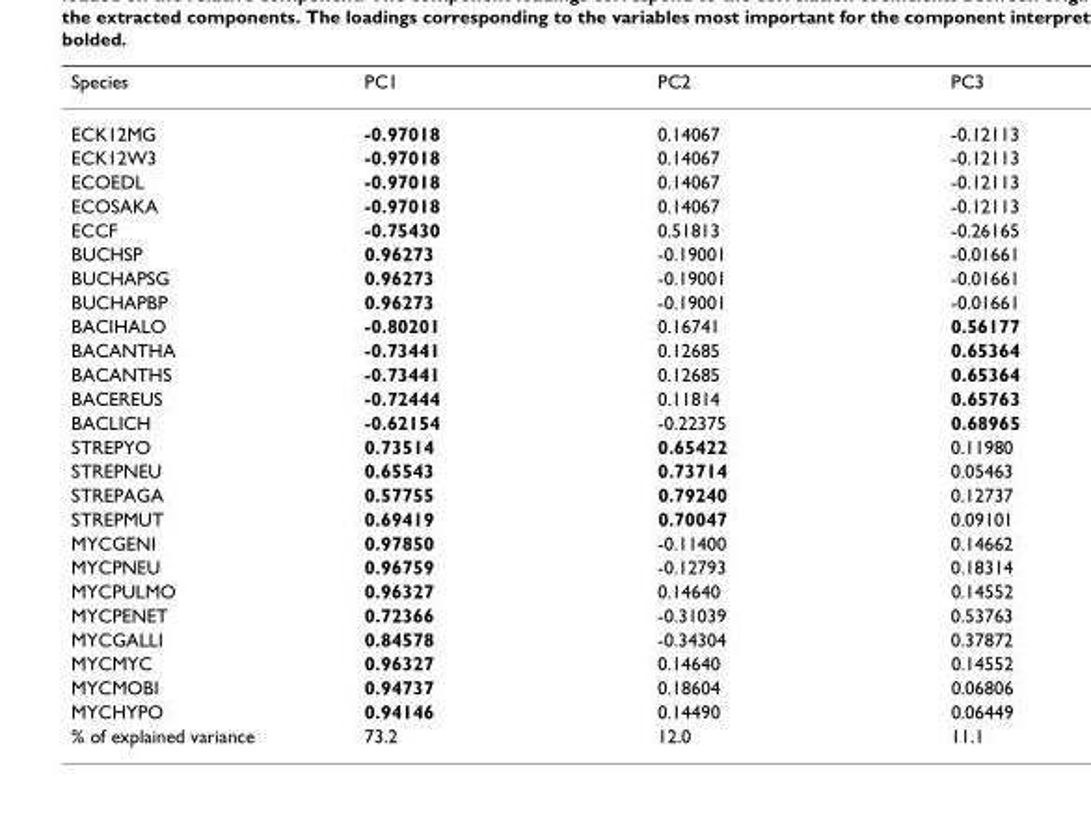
<table><thead><tr><td>Species</td><td>PC1</td><td>PC2</td><td>PC3</td></tr></thead><tbody><tr><td>ECK12MG</td><td>-0.97018</td><td>0.14067</td><td>-0.12113</td></tr><tr><td>ECK12W3</td><td>-0.97018</td><td>0.14067</td><td>-0.12113</td></tr><tr><td>ECOEDL</td><td>-0.97018</td><td>0.14067</td><td>-0.12113</td></tr><tr><td>ECOSAKA</td><td>-0.97018</td><td>0.14067</td><td>-0.12113</td></tr><tr><td>ECCF</td><td>-0.75430</td><td>0.51813</td><td>-0.26165</td></tr><tr><td>BUCHSP</td><td>0.96273</td><td>-0.19001</td><td>-0.01661</td></tr><tr><td>BUCHAPSG</td><td>0.96273</td><td>-0.19001</td><td>-0.01661</td></tr><tr><td>BUCHAPBP</td><td>0.96273</td><td>-0.19001</td><td>-0.01661</td></tr><tr><td>BACIHALO</td><td>-0.80201</td><td>0.16741</td><td>0.56177</td></tr><tr><td>BACANTHA</td><td>-0.73441</td><td>0.12685</td><td>0.65364</td></tr><tr><td>BACANTHS</td><td>-0.73441</td><td>0.12685</td><td>0.65364</td></tr><tr><td>BACEREUS</td><td>-0.72444</td><td>0.11814</td><td>0.65763</td></tr><tr><td>BACLICH</td><td>-0.62154</td><td>-0.22375</td><td>0.68965</td></tr><tr><td>STREPYO</td><td>0.73514</td><td>0.65422</td><td>0.11980</td></tr><tr><td>STREPNEU</td><td>0.65543</td><td>0.73714</td><td>0.05463</td></tr><tr><td>STREPAGA</td><td>0.57755</td><td>0.79240</td><td>0.12737</td></tr><tr><td>STREPMUT</td><td>0.69419</td><td>0.70047</td><td>0.09101</td></tr><tr><td>MYCGENI</td><td>0.97850</td><td>-0.11400</td><td>0.14662</td></tr><tr><td>MYCPNEU</td><td>0.96759</td><td>-0.12793</td><td>0.18314</td></tr><tr><td>MYCPULMO</td><td>0.96327</td><td>0.14640</td><td>0.14552</td></tr><tr><td>MYCPENET</td><td>0.72366</td><td>-0.31039</td><td>0.53763</td></tr><tr><td>MYCGALLI</td><td>0.84578</td><td>-0.34304</td><td>0.37872</td></tr><tr><td>MYCMYC</td><td>0.96327</td><td>0.14640</td><td>0.14552</td></tr><tr><td>MYCMOBI</td><td>0.94737</td><td>0.18604</td><td>0.06806</td></tr><tr><td>MYCHYPO</td><td>0.94146</td><td>0.14490</td><td>0.06449</td></tr><tr><td>% of explained variance</td><td>73.2</td><td>12.0</td><td>11.1</td></tr></tbody></table>